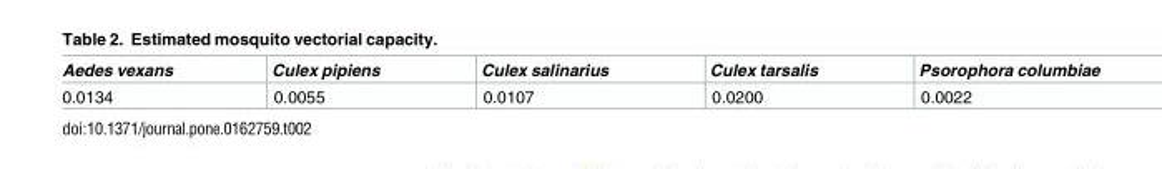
<table><thead><tr><td>Aedes vexans</td><td>Culex pipiens</td><td>Culex salinarius</td><td>Culex tarsalis</td><td>Psorophora columbiae</td></tr></thead><tbody><tr><td>0.0134</td><td>0.0055</td><td>0.0107</td><td>0.0200</td><td>0.0022</td></tr></tbody></table>